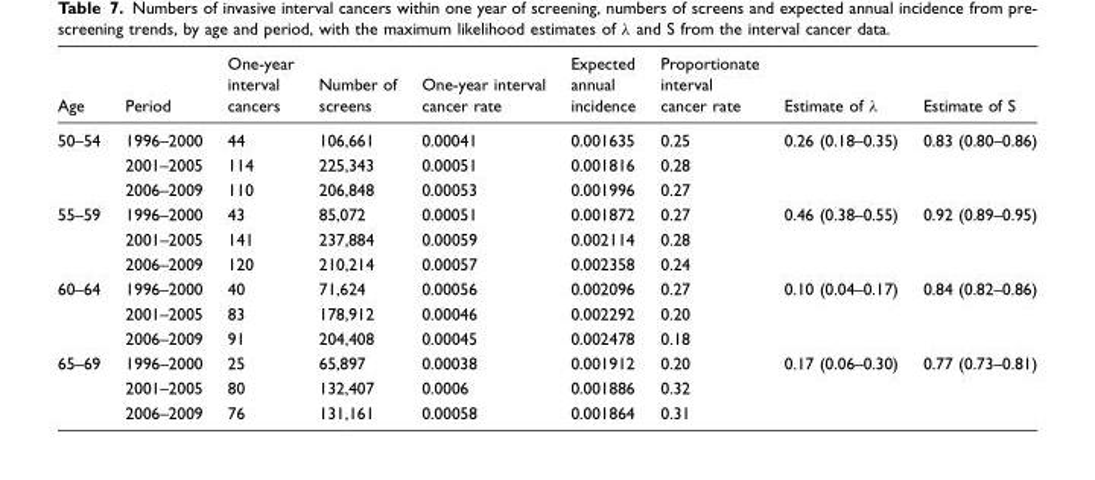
<table><thead><tr><td>Age</td><td>Period</td><td>One-year interval cancers</td><td>Number of screens</td><td>One-year interval cancer rate</td><td>Expected annual incidence</td><td>Proportionate interval cancer rate</td><td>Estimate of λ</td><td>Estimate of S</td></tr></thead><tbody><tr><td rowspan="3">50–54</td><td>1996–2000</td><td>44</td><td>106,661</td><td>0.00041</td><td>0.001635</td><td>0.25</td><td rowspan="3">0.26 (0.18–0.35)</td><td rowspan="3">0.83 (0.80–0.86)</td></tr><tr><td>2001–2005</td><td>114</td><td>225,343</td><td>0.00051</td><td>0.001816</td><td>0.28</td></tr><tr><td>2006–2009</td><td>110</td><td>206,848</td><td>0.00053</td><td>0.001996</td><td>0.27</td></tr><tr><td rowspan="3">55–59</td><td>1996–2000</td><td>43</td><td>85,072</td><td>0.00051</td><td>0.001872</td><td>0.27</td><td rowspan="3">0.46 (0.38–0.55)</td><td rowspan="3">0.92 (0.89–0.95)</td></tr><tr><td>2001–2005</td><td>141</td><td>237,884</td><td>0.00059</td><td>0.002114</td><td>0.28</td></tr><tr><td>2006–2009</td><td>120</td><td>210,214</td><td>0.00057</td><td>0.002358</td><td>0.24</td></tr><tr><td rowspan="3">60–64</td><td>1996–2000</td><td>40</td><td>71,624</td><td>0.00056</td><td>0.002096</td><td>0.27</td><td rowspan="3">0.10 (0.04–0.17)</td><td rowspan="3">0.84 (0.82–0.86)</td></tr><tr><td>2001–2005</td><td>83</td><td>178,912</td><td>0.00046</td><td>0.002292</td><td>0.20</td></tr><tr><td>2006–2009</td><td>91</td><td>204,408</td><td>0.00045</td><td>0.002478</td><td>0.18</td></tr><tr><td rowspan="3">65–69</td><td>1996–2000</td><td>25</td><td>65,897</td><td>0.00038</td><td>0.001912</td><td>0.20</td><td rowspan="3">0.17 (0.06–0.30)</td><td rowspan="3">0.77 (0.73–0.81)</td></tr><tr><td>2001–2005</td><td>80</td><td>132,407</td><td>0.0006</td><td>0.001886</td><td>0.32</td></tr><tr><td>2006–2009</td><td>76</td><td>131,161</td><td>0.00058</td><td>0.001864</td><td>0.31</td></tr></tbody></table>